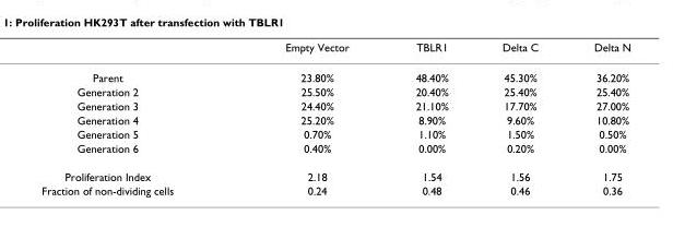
<table><thead><tr><td></td><td>Empty Vector</td><td>TBLR1</td><td>Delta C</td><td>Delta N</td></tr></thead><tbody><tr><td>Parent</td><td>23.80%</td><td>48.40%</td><td>45.30%</td><td>36.20%</td></tr><tr><td>Generation 2</td><td>25.50%</td><td>20.40%</td><td>25.40%</td><td>25.40%</td></tr><tr><td>Generation 3</td><td>24.40%</td><td>21.10%</td><td>17.70%</td><td>27.00%</td></tr><tr><td>Generation 4</td><td>25.20%</td><td>8.90%</td><td>9.60%</td><td>10.80%</td></tr><tr><td>Generation 5</td><td>0.70%</td><td>1.10%</td><td>1.50%</td><td>0.50%</td></tr><tr><td>Generation 6</td><td>0.40%</td><td>0.00%</td><td>0.20%</td><td>0.00%</td></tr><tr><td>Proliferation Index</td><td>2.18</td><td>1.54</td><td>1.56</td><td>1.75</td></tr><tr><td>Fraction of non-dividing cells</td><td>0.24</td><td>0.48</td><td>0.46</td><td>0.36</td></tr></tbody></table>